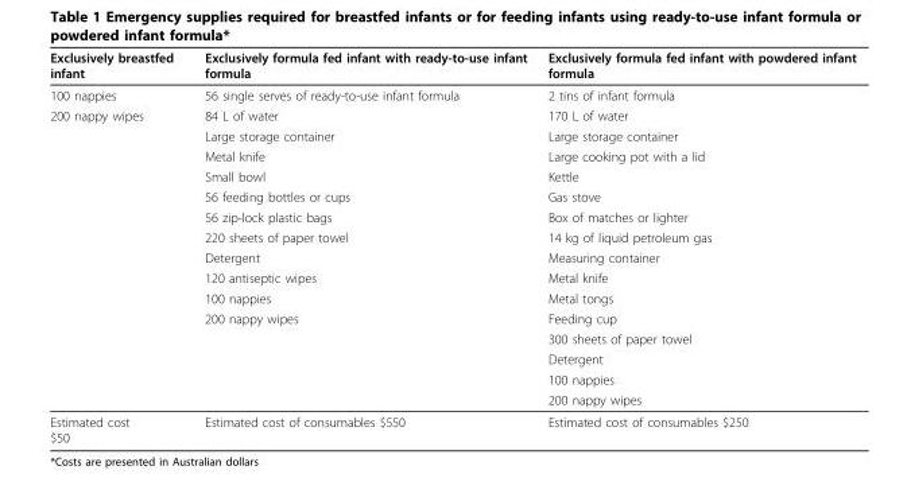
<table><thead><tr><td>Exclusively breastfed infant</td><td>Exclusively formula fed infant with ready-to-use infant formula</td><td>Exclusively formula fed infant with powdered infant formula</td></tr></thead><tbody><tr><td>100 nappies</td><td>56 single serves of ready-to-use infant formula</td><td>2 tins of infant formula</td></tr><tr><td rowspan="15">200 nappy wipes</td><td>84 L of water</td><td>170 L of water</td></tr><tr><td>Large storage container</td><td>Large storage container</td></tr><tr><td>Metal knife</td><td>Large cooking pot with a lid</td></tr><tr><td>Small bowl</td><td>Kettle</td></tr><tr><td>56 feeding bottles or cups</td><td>Gas stove</td></tr><tr><td>56 zip-lock plastic bags</td><td>Box of matches or lighter</td></tr><tr><td>220 sheets of paper towel</td><td>14 kg of liquid petroleum gas</td></tr><tr><td>Detergent</td><td>Measuring container</td></tr><tr><td>120 antiseptic wipes</td><td>Metal knife</td></tr><tr><td>100 nappies</td><td>Metal tongs</td></tr><tr><td>200 nappy wipes</td><td>Feeding cup</td></tr><tr><td></td><td>300 sheets of paper towel</td></tr><tr><td></td><td>Detergent</td></tr><tr><td></td><td>100 nappies</td></tr><tr><td></td><td>200 nappy wipes</td></tr><tr><td>Estimated cost $50</td><td>Estimated cost of consumables $550</td><td>Estimated cost of consumables $250</td></tr></tbody></table>